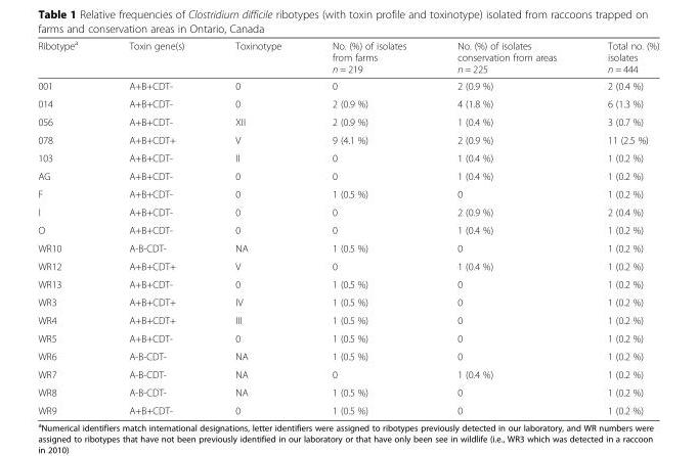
<table><thead><tr><td>Ribotype<sup>a</sup></td><td>Toxin gene(s)</td><td>Toxinotype</td><td>No. (%) of isolates from farms n = 219</td><td>No. (%) of isolates conservation from areas n = 225</td><td>Total no. (%) isolates n = 444</td></tr></thead><tbody><tr><td>001</td><td>A+B+CDT-</td><td>0</td><td>0</td><td>2 (0.9 %)</td><td>2 (0.4 %)</td></tr><tr><td>014</td><td>A+B+CDT-</td><td>0</td><td>2 (0.9 %)</td><td>4 (1.8 %)</td><td>6 (1.3 %)</td></tr><tr><td>056</td><td>A+B+CDT-</td><td>XII</td><td>2 (0.9 %)</td><td>1 (0.4 %)</td><td>3 (0.7 %)</td></tr><tr><td>078</td><td>A+B+CDT+</td><td>V</td><td>9 (4.1 %)</td><td>2 (0.9 %)</td><td>11 (2.5 %)</td></tr><tr><td>103</td><td>A+B+CDT-</td><td>II</td><td>0</td><td>1 (0.4 %)</td><td>1 (0.2 %)</td></tr><tr><td>AG</td><td>A+B+CDT-</td><td>0</td><td>0</td><td>1 (0.4 %)</td><td>1 (0.2 %)</td></tr><tr><td>F</td><td>A+B+CDT-</td><td>0</td><td>1 (0.5 %)</td><td>0</td><td>1 (0.2 %)</td></tr><tr><td>I</td><td>A+B+CDT-</td><td>0</td><td>0</td><td>2 (0.9 %)</td><td>2 (0.4 %)</td></tr><tr><td>O</td><td>A+B+CDT-</td><td>0</td><td>0</td><td>1 (0.4 %)</td><td>1 (0.2 %)</td></tr><tr><td>WR10</td><td>A-B-CDT-</td><td>NA</td><td>1 (0.5 %)</td><td>0</td><td>1 (0.2 %)</td></tr><tr><td>WR12</td><td>A+B+CDT+</td><td>V</td><td>0</td><td>1 (0.4 %)</td><td>1 (0.2 %)</td></tr><tr><td>WR13</td><td>A+B+CDT-</td><td>0</td><td>1 (0.5 %)</td><td>0</td><td>1 (0.2 %)</td></tr><tr><td>WR3</td><td>A+B+CDT+</td><td>IV</td><td>1 (0.5 %)</td><td>0</td><td>1 (0.2 %)</td></tr><tr><td>WR4</td><td>A+B+CDT+</td><td>III</td><td>1 (0.5 %)</td><td>0</td><td>1 (0.2 %)</td></tr><tr><td>WR5</td><td>A+B+CDT-</td><td>0</td><td>1 (0.5 %)</td><td>0</td><td>1 (0.2 %)</td></tr><tr><td>WR6</td><td>A-B-CDT-</td><td>NA</td><td>1 (0.5 %)</td><td>0</td><td>1 (0.2 %)</td></tr><tr><td>WR7</td><td>A-B-CDT-</td><td>NA</td><td>0</td><td>1 (0.4 %)</td><td>1 (0.2 %)</td></tr><tr><td>WR8</td><td>A-B-CDT-</td><td>NA</td><td>1 (0.5 %)</td><td>0</td><td>1 (0.2 %)</td></tr><tr><td>WR9</td><td>A+B+CDT-</td><td>0</td><td>1 (0.5 %)</td><td>0</td><td>1 (0.2 %)</td></tr></tbody></table>